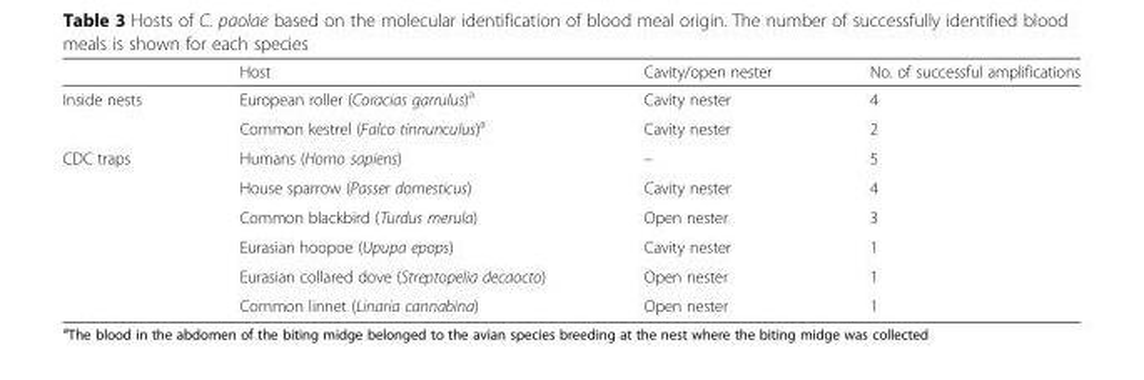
<table><thead><tr><td></td><td>Host</td><td>Cavity/open nester</td><td>No. of successful amplifications</td></tr></thead><tbody><tr><td rowspan="2">Inside nests</td><td>European roller (Coracias garrulus)<sup>a</sup></td><td>Cavity nester</td><td>4</td></tr><tr><td>Common kestrel (Falco tinnunculus)<sup>a</sup></td><td>Cavity nester</td><td>2</td></tr><tr><td rowspan="6">CDC traps</td><td>Humans (Homo sapiens)</td><td>–</td><td>5</td></tr><tr><td>House sparrow (Passer domesticus)</td><td>Cavity nester</td><td>4</td></tr><tr><td>Common blackbird (Turdus merula)</td><td>Open nester</td><td>3</td></tr><tr><td>Eurasian hoopoe (Upupa epops)</td><td>Cavity nester</td><td>1</td></tr><tr><td>Eurasian collared dove (Streptopelia decaocto)</td><td>Open nester</td><td>1</td></tr><tr><td>Common linnet (Linaria cannabina)</td><td>Open nester</td><td>1</td></tr></tbody></table>